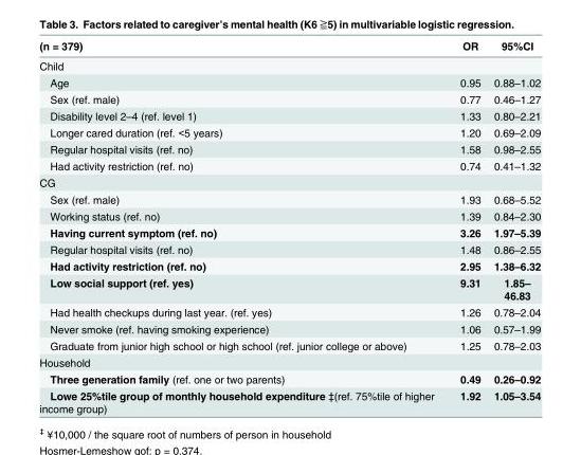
<table><thead><tr><td>(n = 379)</td><td>OR</td><td>95%CI</td></tr></thead><tbody><tr><td colspan="3">Child</td></tr><tr><td>Age</td><td>0.95</td><td>0.88–1.02</td></tr><tr><td>Sex (ref. male)</td><td>0.77</td><td>0.46–1.27</td></tr><tr><td>Disability level 2–4 (ref. level 1)</td><td>1.33</td><td>0.80–2.21</td></tr><tr><td>Longer cared duration (ref. &lt;5 years)</td><td>1.20</td><td>0.69–2.09</td></tr><tr><td>Regular hospital visits (ref. no)</td><td>1.58</td><td>0.98–2.55</td></tr><tr><td>Had activity restriction (ref. no)</td><td>0.74</td><td>0.41–1.32</td></tr><tr><td colspan="3">CG</td></tr><tr><td>Sex (ref. male)</td><td>1.93</td><td>0.68–5.52</td></tr><tr><td>Working status (ref. no)</td><td>1.39</td><td>0.84–2.30</td></tr><tr><td>Having current symptom (ref. no)</td><td>3.26</td><td>1.97–5.39</td></tr><tr><td>Regular hospital visits (ref. no)</td><td>1.48</td><td>0.86–2.55</td></tr><tr><td>Had activity restriction (ref. no)</td><td>2.95</td><td>1.38–6.32</td></tr><tr><td>Low social support (ref. yes)</td><td>9.31</td><td>1.85– 46.83</td></tr><tr><td>Had health checkups during last year. (ref. yes)</td><td>1.26</td><td>0.78–2.04</td></tr><tr><td>Never smoke (ref. having smoking experience)</td><td>1.06</td><td>0.57–1.99</td></tr><tr><td>Graduate from junior high school or high school (ref. junior college or above)</td><td>1.25</td><td>0.78–2.03</td></tr><tr><td colspan="3">Household</td></tr><tr><td>Three generation family (ref. one or two parents)</td><td>0.49</td><td>0.26–0.92</td></tr><tr><td>Lowe 25%tile group of monthly household expenditure ‡(ref. 75%tile of higher income group)</td><td>1.92</td><td>1.05–3.54</td></tr></tbody></table>